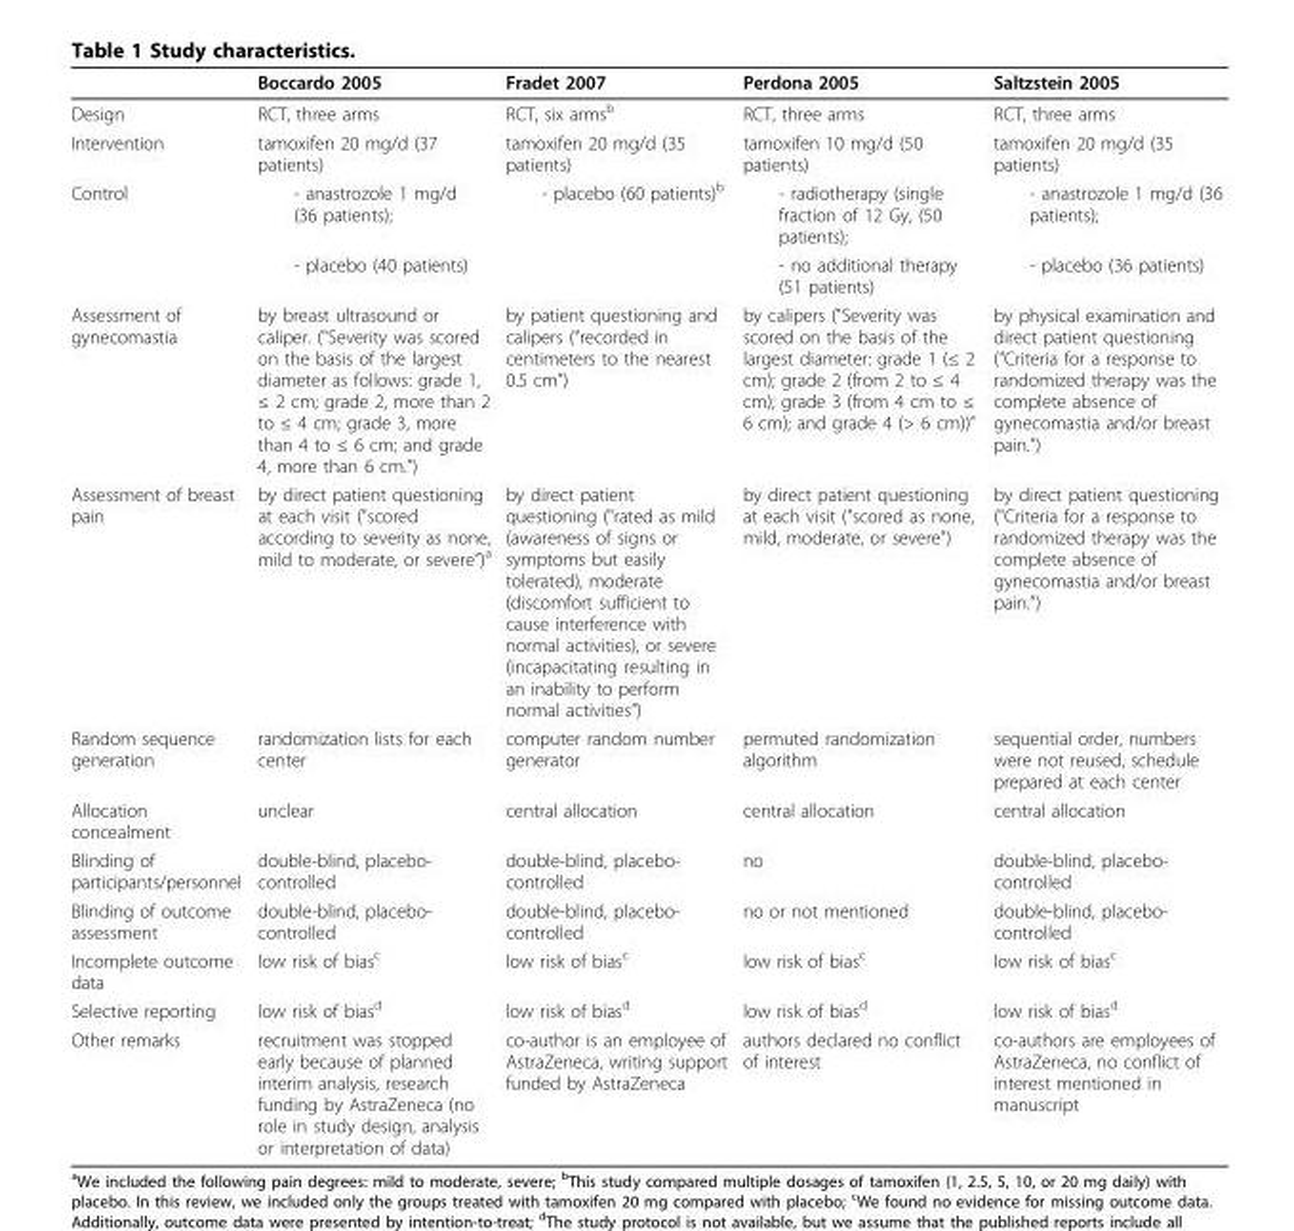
<table><thead><tr><td></td><td>Boccardo 2005</td><td>Fradet 2007</td><td>Perdona 2005</td><td>Saltzstein 2005</td></tr></thead><tbody><tr><td>Design</td><td>RCT, three arms</td><td>RCT, six arms<sup>b</sup></td><td>RCT, three arms</td><td>RCT, three arms</td></tr><tr><td>Intervention</td><td>tamoxifen 20 mg/d (37 patients)</td><td>tamoxifen 20 mg/d (35 patients)</td><td>tamoxifen 10 mg/d (50 patients)</td><td>tamoxifen 20 mg/d (35 patients)</td></tr><tr><td rowspan="2">Control</td><td>- anastrozole 1 mg/d (36 patients);</td><td>- placebo (60 patients)<sup>b</sup></td><td>- radiotherapy (single fraction of 12 Gy, (50 patients);</td><td>- anastrozole 1 mg/d (36 patients);</td></tr><tr><td>- placebo (40 patients)</td><td></td><td>- no additional therapy (51 patients)</td><td>- placebo (36 patients)</td></tr><tr><td>Assessment of gynecomastia</td><td>by breast ultrasound or caliper. (&quot;Severity was scored on the basis of the largest diameter as follows: grade 1, ≤ 2 cm; grade 2, more than 2 to ≤ 4 cm; grade 3, more than 4 to ≤ 6 cm; and grade 4, more than 6 cm.”)</td><td>by patient questioning and calipers (&quot;recorded in centimeters to the nearest 0.5 cm”)</td><td>by calipers (&quot;Severity was scored on the basis of the largest diameter: grade 1 (≤ 2 cm); grade 2 (from 2 to ≤ 4 cm); grade 3 (from 4 cm to ≤ 6 cm); and grade 4 (&gt; 6 cm))”</td><td>by physical examination and direct patient questioning (&quot;Criteria for a response to randomized therapy was the complete absence of gynecomastia and/or breast pain.”)</td></tr><tr><td>Assessment of breast pain</td><td>by direct patient questioning at each visit (&quot;scored according to severity as none, mild to moderate, or severe”)a</td><td>by direct patient questioning (&quot;rated as mild (awareness of signs or symptoms but easily tolerated), moderate (discomfort sufficient to cause interference with normal activities), or severe (incapacitating resulting in an inability to perform normal activities”)</td><td>by direct patient questioning at each visit (&quot;scored as none, mild, moderate, or severe”)</td><td>by direct patient questioning (&quot;Criteria for a response to randomized therapy was the complete absence of gynecomastia and/or breast pain.”)</td></tr><tr><td>Random sequence generation</td><td>randomization lists for each center</td><td>computer random number generator</td><td>permuted randomization algorithm</td><td>sequential order, numbers were not reused, schedule prepared at each center</td></tr><tr><td>Allocation concealment</td><td>unclear</td><td>central allocation</td><td>central allocation</td><td>central allocation</td></tr><tr><td>Blinding of participants/personnel</td><td>double-blind, placebo- controlled</td><td>double-blind, placebo- controlled</td><td>no</td><td>double-blind, placebo- controlled</td></tr><tr><td>Blinding of outcome assessment</td><td>double-blind, placebo- controlled</td><td>double-blind, placebo- controlled</td><td>no or not mentioned</td><td>double-blind, placebo- controlled</td></tr><tr><td>Incomplete outcome data</td><td>low risk of bias<sup>c</sup></td><td>low risk of bias<sup>c</sup></td><td>low risk of bias<sup>c</sup></td><td>low risk of bias<sup>c</sup></td></tr><tr><td>Selective reporting</td><td>low risk of bias<sup>d</sup></td><td>low risk of bias<sup>d</sup></td><td>low risk of bias<sup>d</sup></td><td>low risk of bias<sup>d</sup></td></tr><tr><td>Other remarks</td><td>recruitment was stopped early because of planned interim analysis, research funding by AstraZeneca (no role in study design, analysis or interpretation of data)</td><td>co-author is an employee of AstraZeneca, writing support funded by AstraZeneca</td><td>authors declared no conflict of interest</td><td>co-authors are employees of AstraZeneca, no conflict of interest mentioned in manuscript</td></tr></tbody></table>